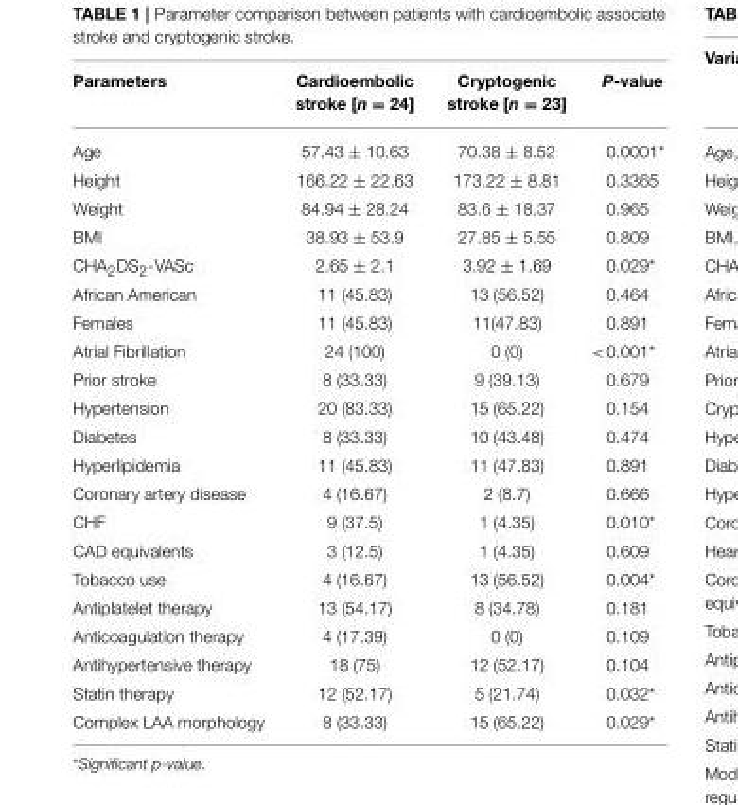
<table><thead><tr><td>Parameters</td><td>Cardioembolic stroke [n = 24]</td><td>Cryptogenic stroke [n = 23]</td><td>P-value</td></tr></thead><tbody><tr><td>Age</td><td>57.43 ± 10.63</td><td>70.38 ± 8.52</td><td>0.0001*</td></tr><tr><td>Height</td><td>166.22 ± 22.63</td><td>173.22 ± 8.81</td><td>0.3365</td></tr><tr><td>Weight</td><td>84.94 ± 28.24</td><td>83.6 ± 18.37</td><td>0.965</td></tr><tr><td>BMI</td><td>38.93 ± 53.9</td><td>27.85 ± 5.55</td><td>0.809</td></tr><tr><td>CHA<sub>2</sub>DS<sub>2</sub>-VASc</td><td>2.65 ± 2.1</td><td>3.92 ± 1.69</td><td>0.029*</td></tr><tr><td>African American</td><td>11 (45.83)</td><td>13 (56.52)</td><td>0.464</td></tr><tr><td>Females</td><td>11 (45.83)</td><td>11(47.83)</td><td>0.891</td></tr><tr><td>Atrial Fibrillation</td><td>24 (100)</td><td>0 (0)</td><td>&lt;0.001*</td></tr><tr><td>Prior stroke</td><td>8 (33.33)</td><td>9 (39.13)</td><td>0.679</td></tr><tr><td>Hypertension</td><td>20 (83.33)</td><td>15 (65.22)</td><td>0.154</td></tr><tr><td>Diabetes</td><td>8 (33.33)</td><td>10 (43.48)</td><td>0.474</td></tr><tr><td>Hyperlipidemia</td><td>11 (45.83)</td><td>11 (47.83)</td><td>0.891</td></tr><tr><td>Coronary artery disease</td><td>4 (16.67)</td><td>2 (8.7)</td><td>0.666</td></tr><tr><td>CHF</td><td>9 (37.5)</td><td>1 (4.35)</td><td>0.010*</td></tr><tr><td>CAD equivalents</td><td>3 (12.5)</td><td>1 (4.35)</td><td>0.609</td></tr><tr><td>Tobacco use</td><td>4 (16.67)</td><td>13 (56.52)</td><td>0.004*</td></tr><tr><td>Antiplatelet therapy</td><td>13 (54.17)</td><td>8 (34.78)</td><td>0.181</td></tr><tr><td>Anticoagulation therapy</td><td>4 (17.39)</td><td>0 (0)</td><td>0.109</td></tr><tr><td>Antihypertensive therapy</td><td>18 (75)</td><td>12 (52.17)</td><td>0.104</td></tr><tr><td>Statin therapy</td><td>12 (52.17)</td><td>5 (21.74)</td><td>0.032*</td></tr><tr><td>Complex LAA morphology</td><td>8 (33.33)</td><td>15 (65.22)</td><td>0.029*</td></tr></tbody></table>